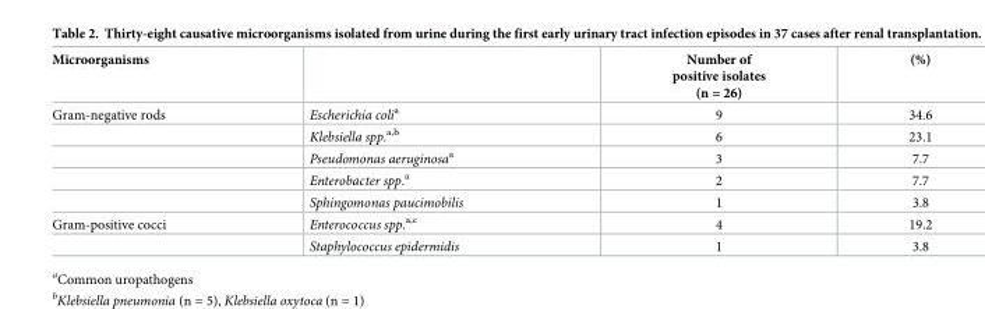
<table><thead><tr><td>Microorganisms</td><td></td><td>Number of positive isolates (n = 26)</td><td>(%)</td></tr></thead><tbody><tr><td rowspan="5">Gram-negative rods</td><td>Escherichia coli<sup>a</sup></td><td>9</td><td>34.6</td></tr><tr><td>Klebsiella spp.<sup>a,b</sup></td><td>6</td><td>23.1</td></tr><tr><td>Pseudomonas aeruginosa<sup>a</sup></td><td>3</td><td>7.7</td></tr><tr><td>Enterobacter spp.<sup>a</sup></td><td>2</td><td>7.7</td></tr><tr><td>Sphingomonas paucimobilis</td><td>1</td><td>3.8</td></tr><tr><td rowspan="2">Gram-positive cocci</td><td>Enterococcus spp.<sup>a,c</sup></td><td>4</td><td>19.2</td></tr><tr><td>Staphylococcus epidermidis</td><td>1</td><td>3.8</td></tr></tbody></table>